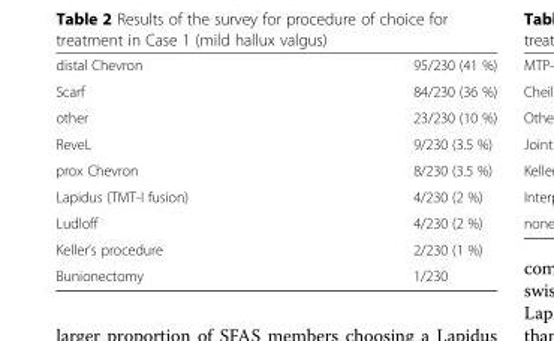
<table><tbody><tr><td>distal Chevron</td><td>95/230 (41 %)</td></tr><tr><td>Scarf</td><td>84/230 (36 %)</td></tr><tr><td>other</td><td>23/230 (10 %)</td></tr><tr><td>ReveL</td><td>9/230 (3.5 %)</td></tr><tr><td>prox Chevron</td><td>8/230 (3.5 %)</td></tr><tr><td>Lapidus (TMT-I fusion)</td><td>4/230 (2 %)</td></tr><tr><td>Ludloff</td><td>4/230 (2 %)</td></tr><tr><td>Keller’s procedure</td><td>2/230 (1 %)</td></tr><tr><td>Bunionectomy</td><td>1/230</td></tr></tbody></table>